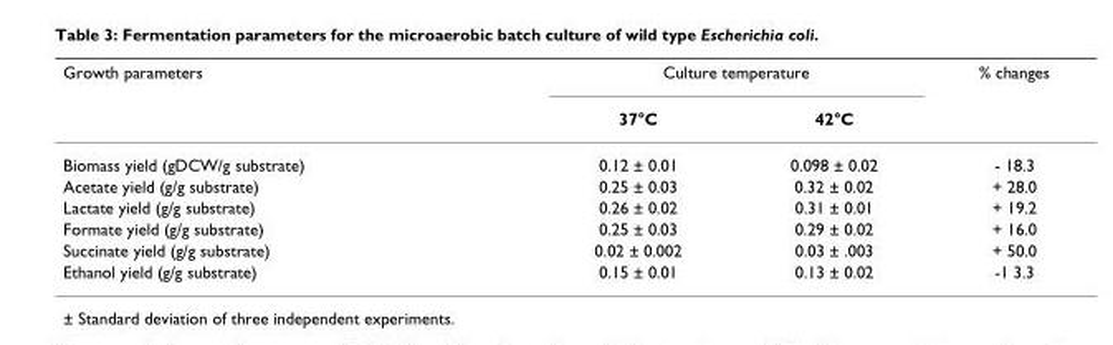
<table><thead><tr><td rowspan="2">Growth parameters</td><td colspan="2">Culture temperature</td><td rowspan="2">% changes</td></tr><tr><td>37°C</td><td>42°C</td></tr></thead><tbody><tr><td>Biomass yield (gDCW/g substrate)</td><td>0.12 ± 0.01</td><td>0.098 ± 0.02</td><td>- 18.3</td></tr><tr><td>Acetate yield (g/g substrate)</td><td>0.25 ± 0.03</td><td>0.32 ± 0.02</td><td>+ 28.0</td></tr><tr><td>Lactate yield (g/g substrate)</td><td>0.26 ± 0.02</td><td>0.31 ± 0.01</td><td>+ 19.2</td></tr><tr><td>Formate yield (g/g substrate)</td><td>0.25 ± 0.03</td><td>0.29 ± 0.02</td><td>+ 16.0</td></tr><tr><td>Succinate yield (g/g substrate)</td><td>0.02 ± 0.002</td><td>0.03 ± .003</td><td>+ 50.0</td></tr><tr><td>Ethanol yield (g/g substrate)</td><td>0.15 ± 0.01</td><td>0.13 ± 0.02</td><td>-1 3.3</td></tr></tbody></table>